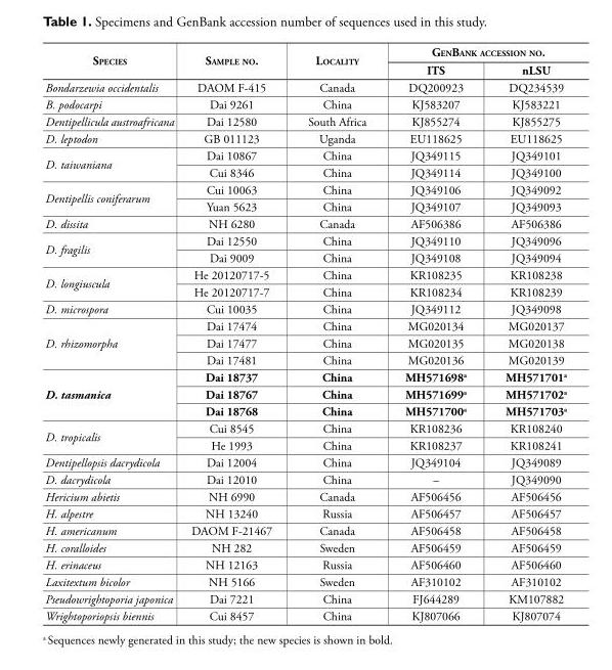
<table><thead><tr><td rowspan="2">SpecieS</td><td rowspan="2">Sample no.</td><td rowspan="2">locality</td><td colspan="2">GenBank acceSSion no.</td></tr><tr><td>ITS</td><td>nLSU</td></tr></thead><tbody><tr><td>Bondarzewia occidentalis</td><td>DAOM F-415</td><td>Canada</td><td>DQ200923</td><td>DQ234539</td></tr><tr><td>B. podocarpi</td><td>Dai 9261</td><td>China</td><td>KJ583207</td><td>KJ583221</td></tr><tr><td>Dentipellicula austroafricana</td><td>Dai 12580</td><td>South Africa</td><td>KJ855274</td><td>KJ855275</td></tr><tr><td>D. leptodon</td><td>GB 011123</td><td>Uganda</td><td>EU118625</td><td>EU118625</td></tr><tr><td rowspan="2">D. taiwaniana</td><td>Dai 10867</td><td>China</td><td>JQ349115</td><td>JQ349101</td></tr><tr><td>Cui 8346</td><td>China</td><td>JQ349114</td><td>JQ349100</td></tr><tr><td rowspan="2">Dentipellis coniferarum</td><td>Cui 10063</td><td>China</td><td>JQ349106</td><td>JQ349092</td></tr><tr><td>Yuan 5623</td><td>China</td><td>JQ349107</td><td>JQ349093</td></tr><tr><td>D. dissita</td><td>NH 6280</td><td>Canada</td><td>AF506386</td><td>AF506386</td></tr><tr><td rowspan="2">D. fragilis</td><td>Dai 12550</td><td>China</td><td>JQ349110</td><td>JQ349096</td></tr><tr><td>Dai 9009</td><td>China</td><td>JQ349108</td><td>JQ349094</td></tr><tr><td rowspan="2">D. longiuscula</td><td>He 20120717-5</td><td>China</td><td>KR108235</td><td>KR108238</td></tr><tr><td>He 20120717-7</td><td>China</td><td>KR108234</td><td>KR108239</td></tr><tr><td>D. microspora</td><td>Cui 10035</td><td>China</td><td>JQ349112</td><td>JQ349098</td></tr><tr><td rowspan="3">D. rhizomorpha</td><td>Dai 17474</td><td>China</td><td>MG020134</td><td>MG020137</td></tr><tr><td>Dai 17477</td><td>China</td><td>MG020135</td><td>MG020138</td></tr><tr><td>Dai 17481</td><td>China</td><td>MG020136</td><td>MG020139</td></tr><tr><td rowspan="3">D. tasmanica</td><td>Dai 18737</td><td>China</td><td>MH571698<sup>a</sup></td><td>MH571701<sup>a</sup></td></tr><tr><td>Dai 18767</td><td>China</td><td>MH571699<sup>a</sup></td><td>MH571702<sup>a</sup></td></tr><tr><td>Dai 18768</td><td>China</td><td>MH571700<sup>a</sup></td><td>MH571703<sup>a</sup></td></tr><tr><td rowspan="2">D. tropicalis</td><td>Cui 8545</td><td>China</td><td>KR108236</td><td>KR108240</td></tr><tr><td>He 1993</td><td>China</td><td>KR108237</td><td>KR108241</td></tr><tr><td>Dentipellopsis dacrydicola</td><td>Dai 12004</td><td>China</td><td>JQ349104</td><td>JQ349089</td></tr><tr><td>D. dacrydicola</td><td>Dai 12010</td><td>China</td><td>–</td><td>JQ349090</td></tr><tr><td>Hericium abietis</td><td>NH 6990</td><td>Canada</td><td>AF506456</td><td>AF506456</td></tr><tr><td>H. alpestre</td><td>NH 13240</td><td>Russia</td><td>AF506457</td><td>AF506457</td></tr><tr><td>H. americanum</td><td>DAOM F-21467</td><td>Canada</td><td>AF506458</td><td>AF506458</td></tr><tr><td>H. coralloides</td><td>NH 282</td><td>Sweden</td><td>AF506459</td><td>AF506459</td></tr><tr><td>H. erinaceus</td><td>NH 12163</td><td>Russia</td><td>AF506460</td><td>AF506460</td></tr><tr><td>Laxitextum bicolor</td><td>NH 5166</td><td>Sweden</td><td>AF310102</td><td>AF310102</td></tr><tr><td>Pseudowrightoporia japonica</td><td>Dai 7221</td><td>China</td><td>FJ644289</td><td>KM107882</td></tr><tr><td>Wrightoporiopsis biennis</td><td>Cui 8457</td><td>China</td><td>KJ807066</td><td>KJ807074</td></tr></tbody></table>